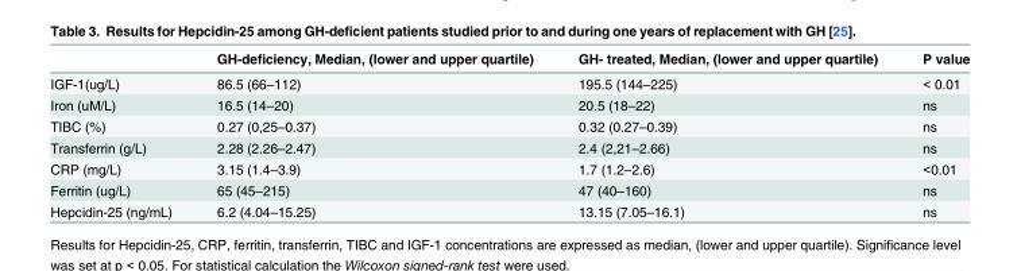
<table><thead><tr><td></td><td>GH-deficiency, Median, (lower and upper quartile)</td><td>GH- treated, Median, (lower and upper quartile)</td><td>P value</td></tr></thead><tbody><tr><td>IGF-1(ug/L)</td><td>86.5 (66–112)</td><td>195.5 (144–225)</td><td>&lt; 0.01</td></tr><tr><td>Iron (uM/L)</td><td>16.5 (14–20)</td><td>20.5 (18–22)</td><td>ns</td></tr><tr><td>TIBC (%)</td><td>0.27 (0,25–0.37)</td><td>0.32 (0.27–0.39)</td><td>ns</td></tr><tr><td>Transferrin (g/L)</td><td>2.28 (2.26–2.47)</td><td>2.4 (2,21–2.66)</td><td>ns</td></tr><tr><td>CRP (mg/L)</td><td>3.15 (1.4–3.9)</td><td>1.7 (1.2–2.6)</td><td>&lt;0.01</td></tr><tr><td>Ferritin (ug/L)</td><td>65 (45–215)</td><td>47 (40–160)</td><td>ns</td></tr><tr><td>Hepcidin-25 (ng/mL)</td><td>6.2 (4.04–15.25)</td><td>13.15 (7.05–16.1)</td><td>ns</td></tr></tbody></table>